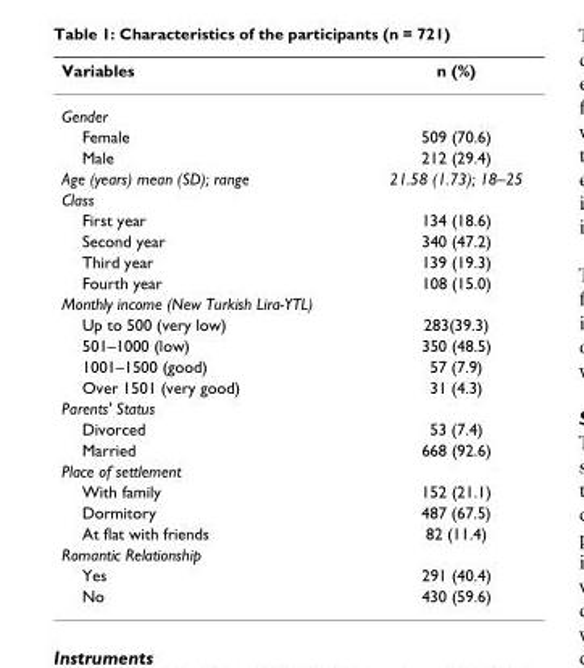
<table><thead><tr><td>Variables</td><td>n (%)</td></tr></thead><tbody><tr><td colspan="2">Gender</td></tr><tr><td>Female</td><td>509 (70.6)</td></tr><tr><td>Male</td><td>212 (29.4)</td></tr><tr><td>Age (years) mean (SD); range</td><td>21.58 (1.73); 18–25</td></tr><tr><td colspan="2">Class</td></tr><tr><td>First year</td><td>134 (18.6)</td></tr><tr><td>Second year</td><td>340 (47.2)</td></tr><tr><td>Third year</td><td>139 (19.3)</td></tr><tr><td>Fourth year</td><td>108 (15.0)</td></tr><tr><td colspan="2">Monthly income (New Turkish Lira-YTL)</td></tr><tr><td>Up to 500 (very low)</td><td>283(39.3)</td></tr><tr><td>501–1000 (low)</td><td>350 (48.5)</td></tr><tr><td>1001–1500 (good)</td><td>57 (7.9)</td></tr><tr><td>Over 1501 (very good)</td><td>31 (4.3)</td></tr><tr><td colspan="2">Parents&#x27; Status</td></tr><tr><td>Divorced</td><td>53 (7.4)</td></tr><tr><td>Married</td><td>668 (92.6)</td></tr><tr><td colspan="2">Place of settlement</td></tr><tr><td>With family</td><td>152 (21.1)</td></tr><tr><td>Dormitory</td><td>487 (67.5)</td></tr><tr><td>At flat with friends</td><td>82 (11.4)</td></tr><tr><td colspan="2">Romantic Relationship</td></tr><tr><td>Yes</td><td>291 (40.4)</td></tr><tr><td>No</td><td>430 (59.6)</td></tr></tbody></table>